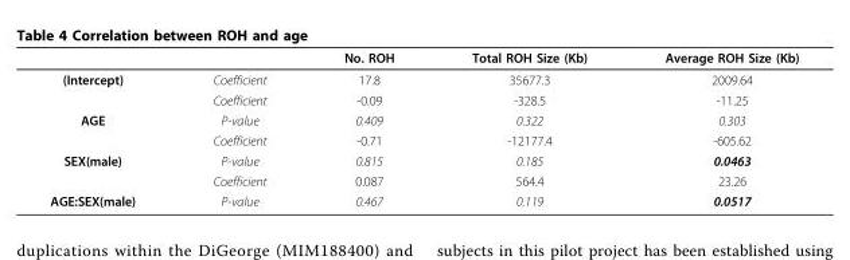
<table><thead><tr><td></td><td></td><td>No. ROH</td><td>Total ROH Size (Kb)</td><td>Average ROH Size (Kb)</td></tr></thead><tbody><tr><td rowspan="2">(Intercept)</td><td>Coefficient</td><td>17.8</td><td>35677.3</td><td>2009.64</td></tr><tr><td>Coefficient</td><td>-0.09</td><td>-328.5</td><td>-11.25</td></tr><tr><td rowspan="2">AGE</td><td>P-value</td><td>0.409</td><td>0.322</td><td>0.303</td></tr><tr><td>Coefficient</td><td>-0.71</td><td>-12177.4</td><td>-605.62</td></tr><tr><td rowspan="2">SEX(male)</td><td>P-value</td><td>0.815</td><td>0.185</td><td>0.0463</td></tr><tr><td>Coefficient</td><td>0.087</td><td>564.4</td><td>23.26</td></tr><tr><td>AGE:SEX(male)</td><td>P-value</td><td>0.467</td><td>0.119</td><td>0.0517</td></tr></tbody></table>